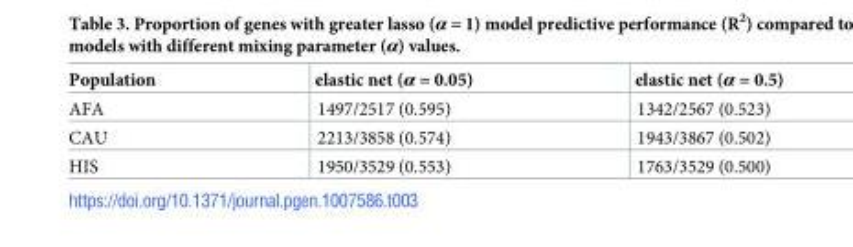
<table><thead><tr><td>Population</td><td>elastic net (α = 0.05)</td><td>elastic net (α = 0.5)</td></tr></thead><tbody><tr><td>AFA</td><td>1497/2517 (0.595)</td><td>1342/2567 (0.523)</td></tr><tr><td>CAU</td><td>2213/3858 (0.574)</td><td>1943/3867 (0.502)</td></tr><tr><td>HIS</td><td>1950/3529 (0.553)</td><td>1763/3529 (0.500)</td></tr></tbody></table>